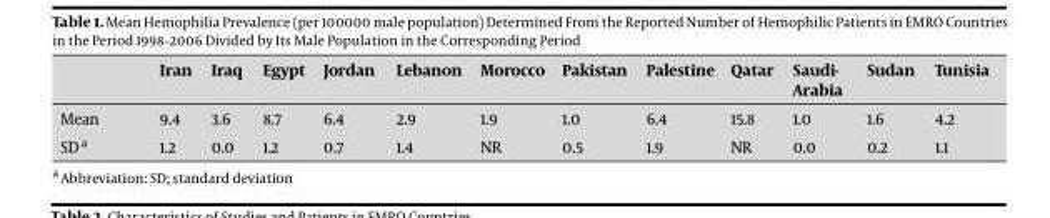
<table><thead><tr><td></td><td>Iran</td><td>Iraq</td><td>Egypt</td><td>Jordan</td><td>Lebanon</td><td>Morocco</td><td>Pakistan</td><td>Palestine</td><td>Qatar</td><td>Saudi- Arabia</td><td>Sudan</td><td>Tunisia</td></tr></thead><tbody><tr><td>Mean</td><td>9.4</td><td>3.6</td><td>8.7</td><td>6.4</td><td>2.9</td><td>1.9</td><td>1.0</td><td>6.4</td><td>15.8</td><td>1.0</td><td>1.6</td><td>4.2</td></tr><tr><td>SD a</td><td>1.2</td><td>0.0</td><td>1.2</td><td>0.7</td><td>1.4</td><td>NR</td><td>0.5</td><td>1.9</td><td>NR</td><td>0.0</td><td>0.2</td><td>1.1</td></tr></tbody></table>